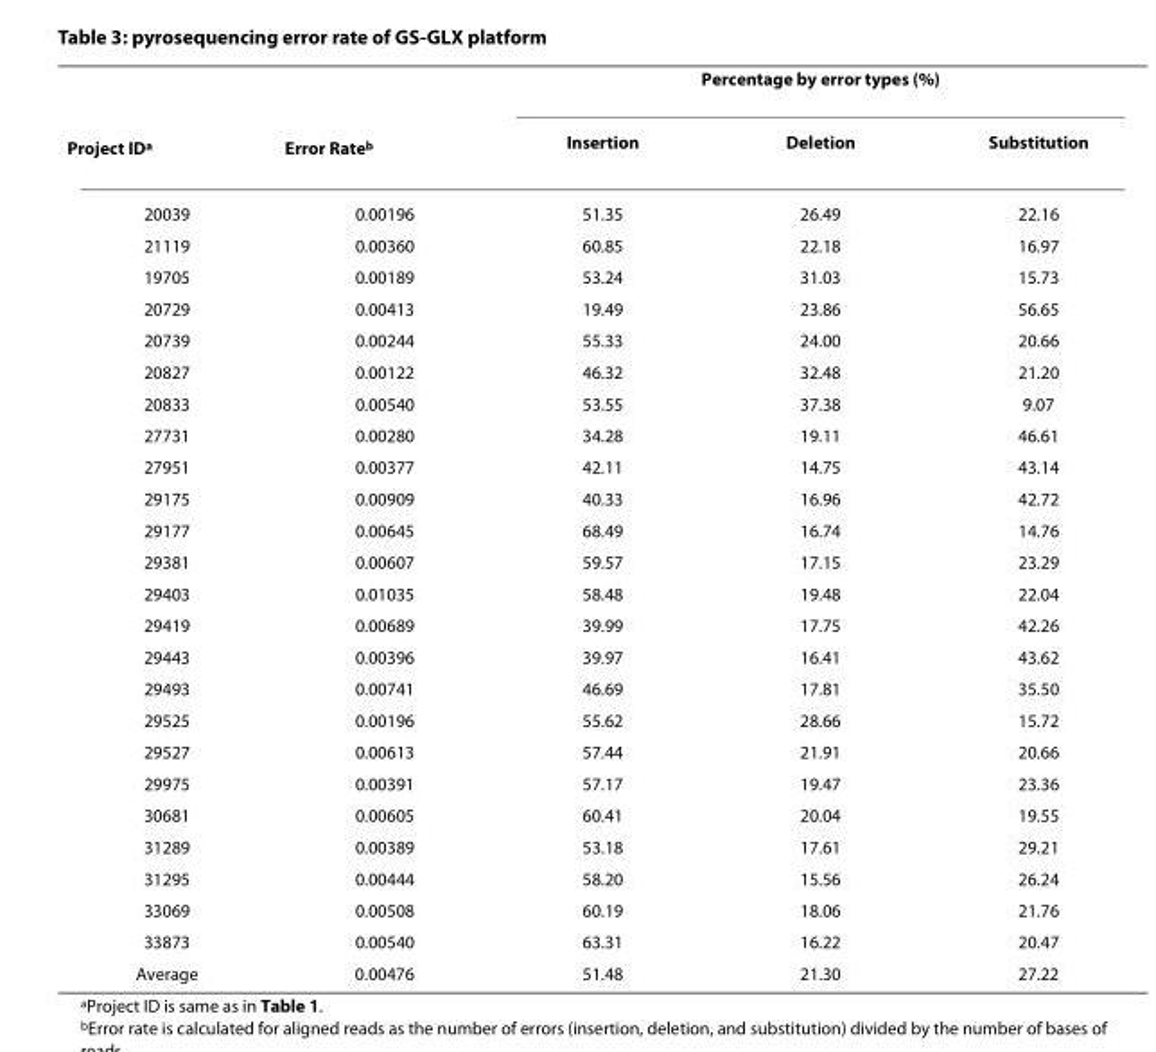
<table><thead><tr><td rowspan="2">Project ID<sup>a</sup></td><td rowspan="2">Error Rate<sup>b</sup></td><td colspan="3">Percentage by error types (%)</td></tr><tr><td>Insertion</td><td>Deletion</td><td>Substitution</td></tr></thead><tbody><tr><td>20039</td><td>0.00196</td><td>51.35</td><td>26.49</td><td>22.16</td></tr><tr><td>21119</td><td>0.00360</td><td>60.85</td><td>22.18</td><td>16.97</td></tr><tr><td>19705</td><td>0.00189</td><td>53.24</td><td>31.03</td><td>15.73</td></tr><tr><td>20729</td><td>0.00413</td><td>19.49</td><td>23.86</td><td>56.65</td></tr><tr><td>20739</td><td>0.00244</td><td>55.33</td><td>24.00</td><td>20.66</td></tr><tr><td>20827</td><td>0.00122</td><td>46.32</td><td>32.48</td><td>21.20</td></tr><tr><td>20833</td><td>0.00540</td><td>53.55</td><td>37.38</td><td>9.07</td></tr><tr><td>27731</td><td>0.00280</td><td>34.28</td><td>19.11</td><td>46.61</td></tr><tr><td>27951</td><td>0.00377</td><td>42.11</td><td>14.75</td><td>43.14</td></tr><tr><td>29175</td><td>0.00909</td><td>40.33</td><td>16.96</td><td>42.72</td></tr><tr><td>29177</td><td>0.00645</td><td>68.49</td><td>16.74</td><td>14.76</td></tr><tr><td>29381</td><td>0.00607</td><td>59.57</td><td>17.15</td><td>23.29</td></tr><tr><td>29403</td><td>0.01035</td><td>58.48</td><td>19.48</td><td>22.04</td></tr><tr><td>29419</td><td>0.00689</td><td>39.99</td><td>17.75</td><td>42.26</td></tr><tr><td>29443</td><td>0.00396</td><td>39.97</td><td>16.41</td><td>43.62</td></tr><tr><td>29493</td><td>0.00741</td><td>46.69</td><td>17.81</td><td>35.50</td></tr><tr><td>29525</td><td>0.00196</td><td>55.62</td><td>28.66</td><td>15.72</td></tr><tr><td>29527</td><td>0.00613</td><td>57.44</td><td>21.91</td><td>20.66</td></tr><tr><td>29975</td><td>0.00391</td><td>57.17</td><td>19.47</td><td>23.36</td></tr><tr><td>30681</td><td>0.00605</td><td>60.41</td><td>20.04</td><td>19.55</td></tr><tr><td>31289</td><td>0.00389</td><td>53.18</td><td>17.61</td><td>29.21</td></tr><tr><td>31295</td><td>0.00444</td><td>58.20</td><td>15.56</td><td>26.24</td></tr><tr><td>33069</td><td>0.00508</td><td>60.19</td><td>18.06</td><td>21.76</td></tr><tr><td>33873</td><td>0.00540</td><td>63.31</td><td>16.22</td><td>20.47</td></tr><tr><td>Average</td><td>0.00476</td><td>51.48</td><td>21.30</td><td>27.22</td></tr></tbody></table>